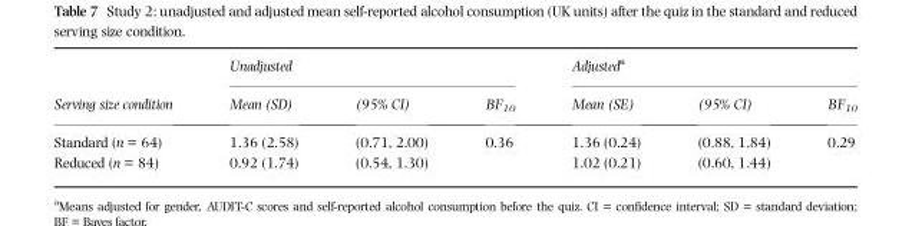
<table><thead><tr><td rowspan="2">Serving size condition</td><td colspan="3">Unadjusted</td><td colspan="3">Adjusted<sup>a</sup></td></tr><tr><td>Mean (SD)</td><td>(95% CI)</td><td>BF<sub>10</sub></td><td>Mean (SE)</td><td>(95% CI)</td><td>BF<sub>10</sub></td></tr></thead><tbody><tr><td>Standard (n = 64)</td><td>1.36 (2.58)</td><td>(0.71, 2.00)</td><td>0.36</td><td>1.36 (0.24)</td><td>(0.88, 1.84)</td><td>0.29</td></tr><tr><td>Reduced (n = 84)</td><td>0.92 (1.74)</td><td>(0.54, 1.30)</td><td></td><td>1.02 (0.21)</td><td>(0.60, 1.44)</td><td></td></tr></tbody></table>